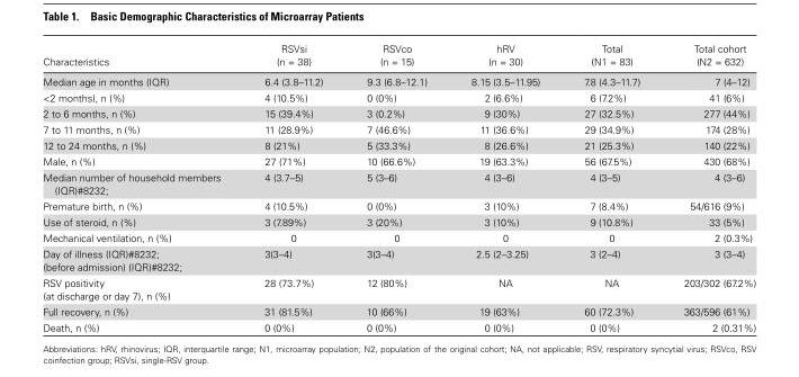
<table><thead><tr><td>Characteristics</td><td>RSVsi (n = 38)</td><td>RSVco (n = 15)</td><td>hRV (n = 30)</td><td>Total (N1 = 83)</td><td>Total cohort (N2 = 632)</td></tr></thead><tbody><tr><td>Median age in months (IQR)</td><td>6.4 (3.8–11.2)</td><td>9.3 (6.8–12.1)</td><td>8.15 (3.5–11.95)</td><td>7.8 (4.3–11.7)</td><td>7 (4–12)</td></tr><tr><td>&lt;2 months), n (%)</td><td>4 (10.5%)</td><td>0 (0%)</td><td>2 (6.6%)</td><td>6 (7.2%)</td><td>41 (6%)</td></tr><tr><td>2 to 6 months, n (%)</td><td>15 (39.4%)</td><td>3 (0.2%)</td><td>9 (30%)</td><td>27 (32.5%)</td><td>277 (44%)</td></tr><tr><td>7 to 11 months, n (%)</td><td>11 (28.9%)</td><td>7 (46.6%)</td><td>11 (36.6%)</td><td>29 (34.9%)</td><td>174 (28%)</td></tr><tr><td>12 to 24 months, n (%)</td><td>8 (21%)</td><td>5 (33.3%)</td><td>8 (26.6%)</td><td>21 (25.3%)</td><td>140 (22%)</td></tr><tr><td>Male, n (%)</td><td>27 (71%)</td><td>10 (66.6%)</td><td>19 (63.3%)</td><td>56 (67.5%)</td><td>430 (68%)</td></tr><tr><td>Median number of household members (IQR)#8232;</td><td>4 (3.7–5)</td><td>5 (3–6)</td><td>4 (3–6)</td><td>4 (3–5)</td><td>4 (3–6)</td></tr><tr><td>Premature birth, n (%)</td><td>4 (10.5%)</td><td>0 (0%)</td><td>3 (10%)</td><td>7 (8.4%)</td><td>54/616 (9%)</td></tr><tr><td>Use of steroid, n (%)</td><td>3 (7.89%)</td><td>3 (20%)</td><td>3 (10%)</td><td>9 (10.8%)</td><td>33 (5%)</td></tr><tr><td>Mechanical ventilation, n (%)</td><td>0</td><td>0</td><td>0</td><td>0</td><td>2 (0.3%)</td></tr><tr><td>Day of illness (IQR)#8232; (before admission) (IQR)#8232;</td><td>3(3–4)</td><td>3(3–4)</td><td>2.5 (2–3.25)</td><td>3 (2–4)</td><td>3 (3–4)</td></tr><tr><td>RSV positivity (at discharge or day 7), n (%)</td><td>28 (73.7%)</td><td>12 (80%)</td><td>NA</td><td>NA</td><td>203/302 (67.2%)</td></tr><tr><td>Full recovery, n (%)</td><td>31 (81.5%)</td><td>10 (66%)</td><td>19 (63%)</td><td>60 (72.3%)</td><td>363/596 (61%)</td></tr><tr><td>Death, n (%)</td><td>0 (0%)</td><td>0 (0%)</td><td>0 (0%)</td><td>0 (0%)</td><td>2 (0.31%)</td></tr></tbody></table>